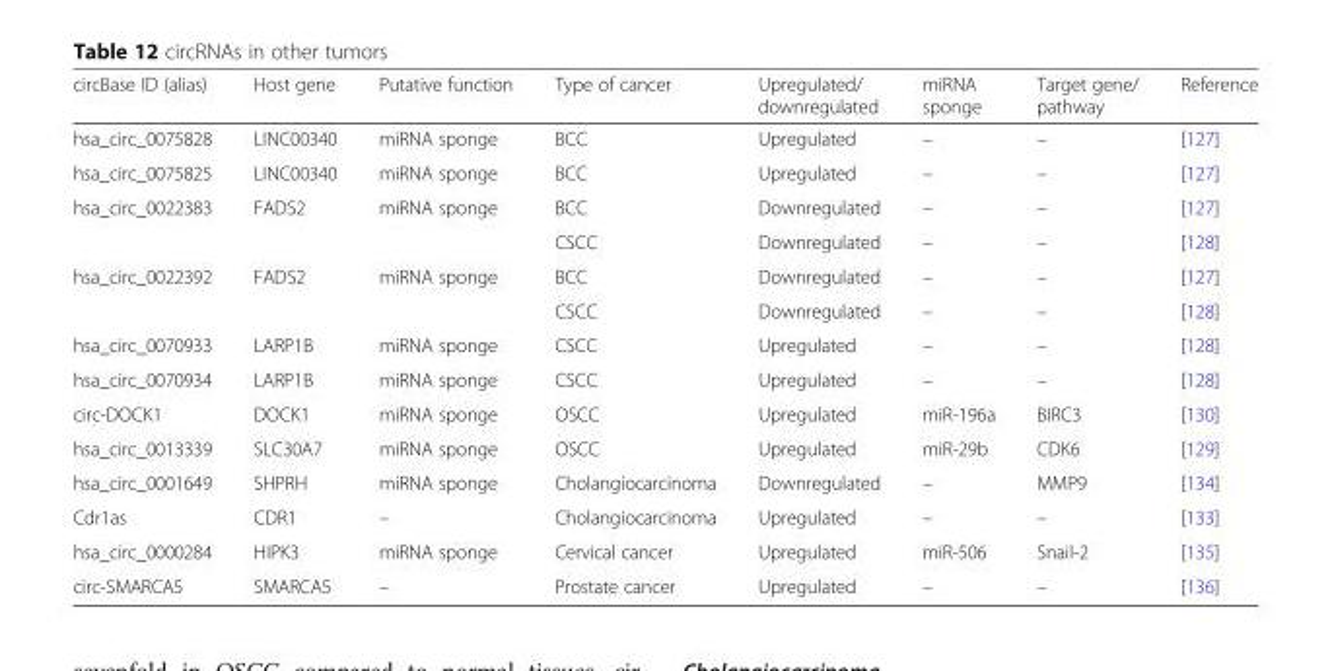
<table><thead><tr><td>circBase ID (alias)</td><td>Host gene</td><td>Putative function</td><td>Type of cancer</td><td>Upregulated/ downregulated</td><td>miRNA sponge</td><td>Target gene/ pathway</td><td>Reference</td></tr></thead><tbody><tr><td>hsa_circ_0075828</td><td>LINC00340</td><td>miRNA sponge</td><td>BCC</td><td>Upregulated</td><td>–</td><td>–</td><td>[127]</td></tr><tr><td>hsa_circ_0075825</td><td>LINC00340</td><td>miRNA sponge</td><td>BCC</td><td>Upregulated</td><td>–</td><td>–</td><td>[127]</td></tr><tr><td rowspan="2">hsa_circ_0022383</td><td rowspan="2">FADS2</td><td rowspan="2">miRNA sponge</td><td>BCC</td><td>Downregulated</td><td>–</td><td>–</td><td>[127]</td></tr><tr><td>CSCC</td><td>Downregulated</td><td>–</td><td>–</td><td>[128]</td></tr><tr><td rowspan="2">hsa_circ_0022392</td><td rowspan="2">FADS2</td><td rowspan="2">miRNA sponge</td><td>BCC</td><td>Downregulated</td><td>–</td><td>–</td><td>[127]</td></tr><tr><td>CSCC</td><td>Downregulated</td><td>–</td><td>–</td><td>[128]</td></tr><tr><td>hsa_circ_0070933</td><td>LARP1B</td><td>miRNA sponge</td><td>CSCC</td><td>Upregulated</td><td>–</td><td>–</td><td>[128]</td></tr><tr><td>hsa_circ_0070934</td><td>LARP1B</td><td>miRNA sponge</td><td>CSCC</td><td>Upregulated</td><td>–</td><td>–</td><td>[128]</td></tr><tr><td>circ-DOCK1</td><td>DOCK1</td><td>miRNA sponge</td><td>OSCC</td><td>Upregulated</td><td>miR-196a</td><td>BIRC3</td><td>[130]</td></tr><tr><td>hsa_circ_0013339</td><td>SLC30A7</td><td>miRNA sponge</td><td>OSCC</td><td>Upregulated</td><td>miR-29b</td><td>CDK6</td><td>[129]</td></tr><tr><td>hsa_circ_0001649</td><td>SHPRH</td><td>miRNA sponge</td><td>Cholangiocarcinoma</td><td>Downregulated</td><td>–</td><td>MMP9</td><td>[134]</td></tr><tr><td>Cdr1as</td><td>CDR1</td><td>–</td><td>Cholangiocarcinoma</td><td>Upregulated</td><td>–</td><td>–</td><td>[133]</td></tr><tr><td>hsa_circ_0000284</td><td>HIPK3</td><td>miRNA sponge</td><td>Cervical cancer</td><td>Upregulated</td><td>miR-506</td><td>Snail-2</td><td>[135]</td></tr><tr><td>circ-SMARCA5</td><td>SMARCA5</td><td>–</td><td>Prostate cancer</td><td>Upregulated</td><td>–</td><td>–</td><td>[136]</td></tr></tbody></table>